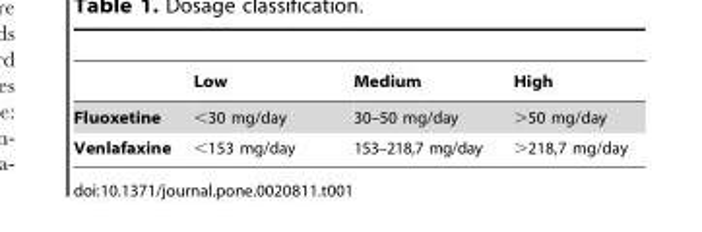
<table><thead><tr><td></td><td>Low</td><td>Medium</td><td>High</td></tr></thead><tbody><tr><td>Fluoxetine</td><td>&lt;30 mg/day</td><td>30–50 mg/day</td><td>&gt;50 mg/day</td></tr><tr><td>Venlafaxine</td><td>&lt;153 mg/day</td><td>153–218,7 mg/day</td><td>&gt;218,7 mg/day</td></tr></tbody></table>